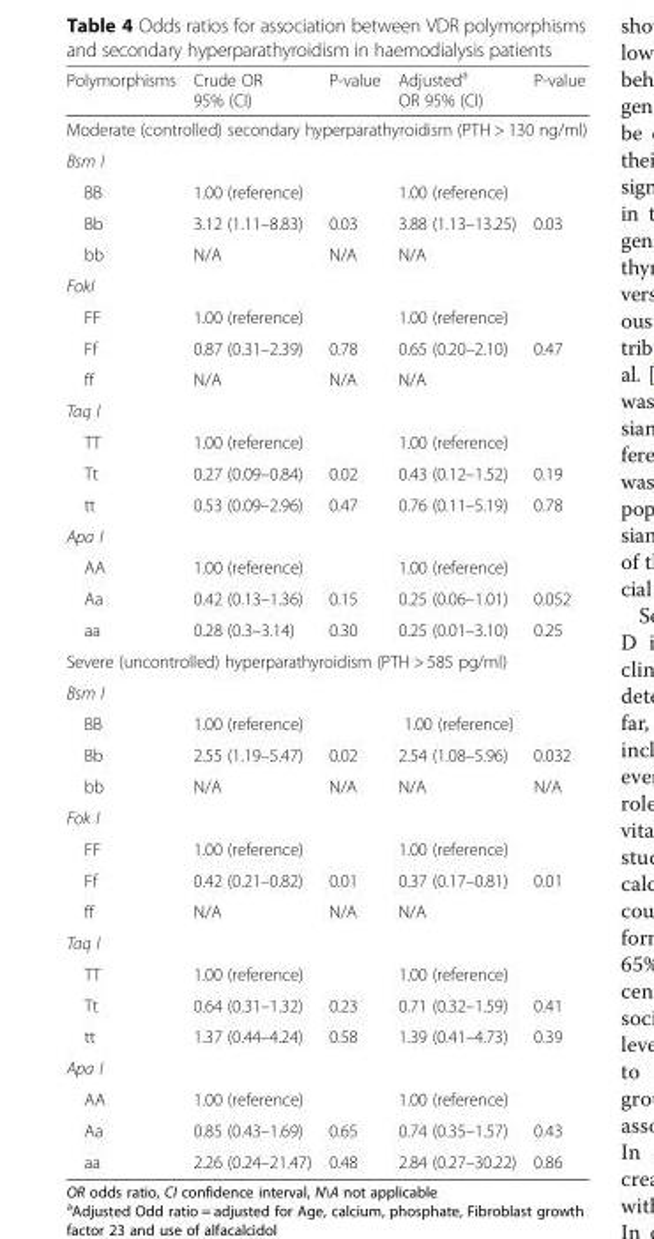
<table><thead><tr><td>Polymorphisms</td><td>Crude OR 95% (CI)</td><td>P-value</td><td>Adjusted<sup>a</sup> OR 95% (CI)</td><td>P-value</td></tr></thead><tbody><tr><td colspan="5">Moderate (controlled) secondary hyperparathyroidism (PTH &gt; 130 ng/ml)</td></tr><tr><td colspan="5">Bsm I</td></tr><tr><td>BB</td><td>1.00 (reference)</td><td></td><td>1.00 (reference)</td><td></td></tr><tr><td>Bb</td><td>3.12 (1.11–8.83)</td><td>0.03</td><td>3.88 (1.13–13.25)</td><td>0.03</td></tr><tr><td>bb</td><td>N/A</td><td>N/A</td><td>N/A</td><td></td></tr><tr><td colspan="5">FokI</td></tr><tr><td>FF</td><td>1.00 (reference)</td><td></td><td>1.00 (reference)</td><td></td></tr><tr><td>Ff</td><td>0.87 (0.31–2.39)</td><td>0.78</td><td>0.65 (0.20–2.10)</td><td>0.47</td></tr><tr><td>ff</td><td>N/A</td><td>N/A</td><td>N/A</td><td></td></tr><tr><td colspan="5">Taq I</td></tr><tr><td>TT</td><td>1.00 (reference)</td><td></td><td>1.00 (reference)</td><td></td></tr><tr><td>Tt</td><td>0.27 (0.09–0.84)</td><td>0.02</td><td>0.43 (0.12–1.52)</td><td>0.19</td></tr><tr><td>tt</td><td>0.53 (0.09–2.96)</td><td>0.47</td><td>0.76 (0.11–5.19)</td><td>0.78</td></tr><tr><td colspan="5">Apa I</td></tr><tr><td>AA</td><td>1.00 (reference)</td><td></td><td>1.00 (reference)</td><td></td></tr><tr><td>Aa</td><td>0.42 (0.13–1.36)</td><td>0.15</td><td>0.25 (0.06–1.01)</td><td>0.052</td></tr><tr><td>aa</td><td>0.28 (0.3–3.14)</td><td>0.30</td><td>0.25 (0.01–3.10)</td><td>0.25</td></tr><tr><td colspan="5">Severe (uncontrolled) hyperparathyroidism (PTH &gt; 585 pg/ml)</td></tr><tr><td colspan="5">Bsm I</td></tr><tr><td>BB</td><td>1.00 (reference)</td><td></td><td>1.00 (reference)</td><td></td></tr><tr><td>Bb</td><td>2.55 (1.19–5.47)</td><td>0.02</td><td>2.54 (1.08–5.96)</td><td>0.032</td></tr><tr><td>bb</td><td>N/A</td><td>N/A</td><td>N/A</td><td>N/A</td></tr><tr><td colspan="5">Fok I</td></tr><tr><td>FF</td><td>1.00 (reference)</td><td></td><td>1.00 (reference)</td><td></td></tr><tr><td>Ff</td><td>0.42 (0.21–0.82)</td><td>0.01</td><td>0.37 (0.17–0.81)</td><td>0.01</td></tr><tr><td>ff</td><td>N/A</td><td>N/A</td><td>N/A</td><td></td></tr><tr><td colspan="5">Taq I</td></tr><tr><td>TT</td><td>1.00 (reference)</td><td></td><td>1.00 (reference)</td><td></td></tr><tr><td>Tt</td><td>0.64 (0.31–1.32)</td><td>0.23</td><td>0.71 (0.32–1.59)</td><td>0.41</td></tr><tr><td>tt</td><td>1.37 (0.44–4.24)</td><td>0.58</td><td>1.39 (0.41–4.73)</td><td>0.39</td></tr><tr><td colspan="5">Apa I</td></tr><tr><td>AA</td><td>1.00 (reference)</td><td></td><td>1.00 (reference)</td><td></td></tr><tr><td>Aa</td><td>0.85 (0.43–1.69)</td><td>0.65</td><td>0.74 (0.35–1.57)</td><td>0.43</td></tr><tr><td>aa</td><td>2.26 (0.24–21.47)</td><td>0.48</td><td>2.84 (0.27–30.22)</td><td>0.86</td></tr></tbody></table>